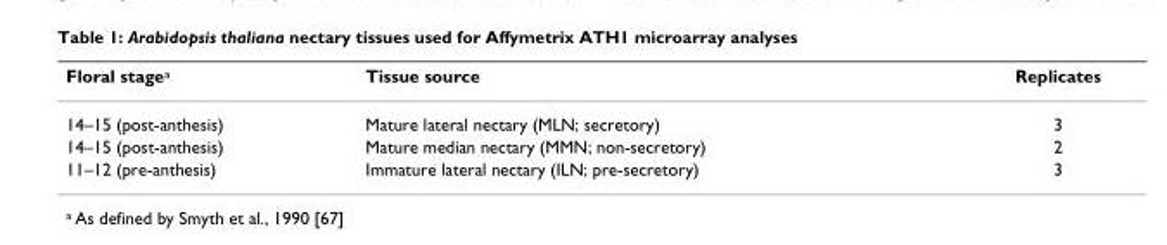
<table><thead><tr><td>Floral stage<sup>a</sup></td><td>Tissue source</td><td>Replicates</td></tr></thead><tbody><tr><td>14–15 (post-anthesis)</td><td>Mature lateral nectary (MLN; secretory)</td><td>3</td></tr><tr><td>14–15 (post-anthesis)</td><td>Mature median nectary (MMN; non-secretory)</td><td>2</td></tr><tr><td>11–12 (pre-anthesis)</td><td>Immature lateral nectary (ILN; pre-secretory)</td><td>3</td></tr></tbody></table>